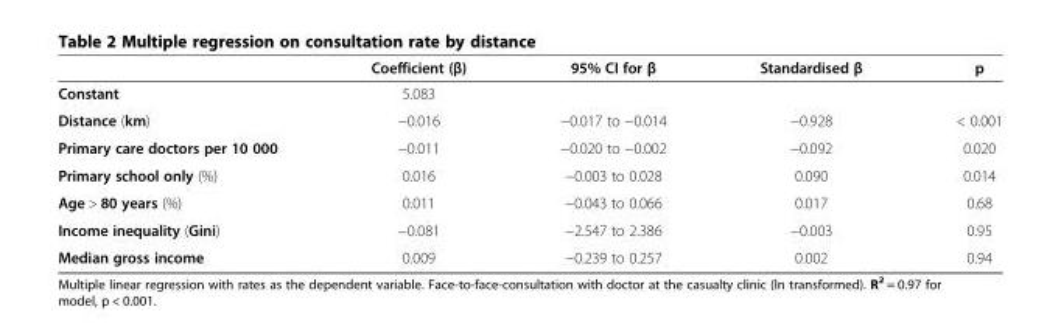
<table><thead><tr><td></td><td>Coefficient (β)</td><td>95% CI for β</td><td>Standardised β</td><td>p</td></tr></thead><tbody><tr><td>Constant</td><td>5.083</td><td></td><td></td><td></td></tr><tr><td>Distance (km)</td><td>−0.016</td><td>−0.017 to −0.014</td><td>−0.928</td><td>&lt; 0.001</td></tr><tr><td>Primary care doctors per 10 000</td><td>−0.011</td><td>−0.020 to −0.002</td><td>−0.092</td><td>0.020</td></tr><tr><td>Primary school only (%)</td><td>0.016</td><td>−0.003 to 0.028</td><td>0.090</td><td>0.014</td></tr><tr><td>Age &gt; 80 years (%)</td><td>0.011</td><td>−0.043 to 0.066</td><td>0.017</td><td>0.68</td></tr><tr><td>Income inequality (Gini)</td><td>−0.081</td><td>−2.547 to 2.386</td><td>−0.003</td><td>0.95</td></tr><tr><td>Median gross income</td><td>0.009</td><td>−0.239 to 0.257</td><td>0.002</td><td>0.94</td></tr></tbody></table>